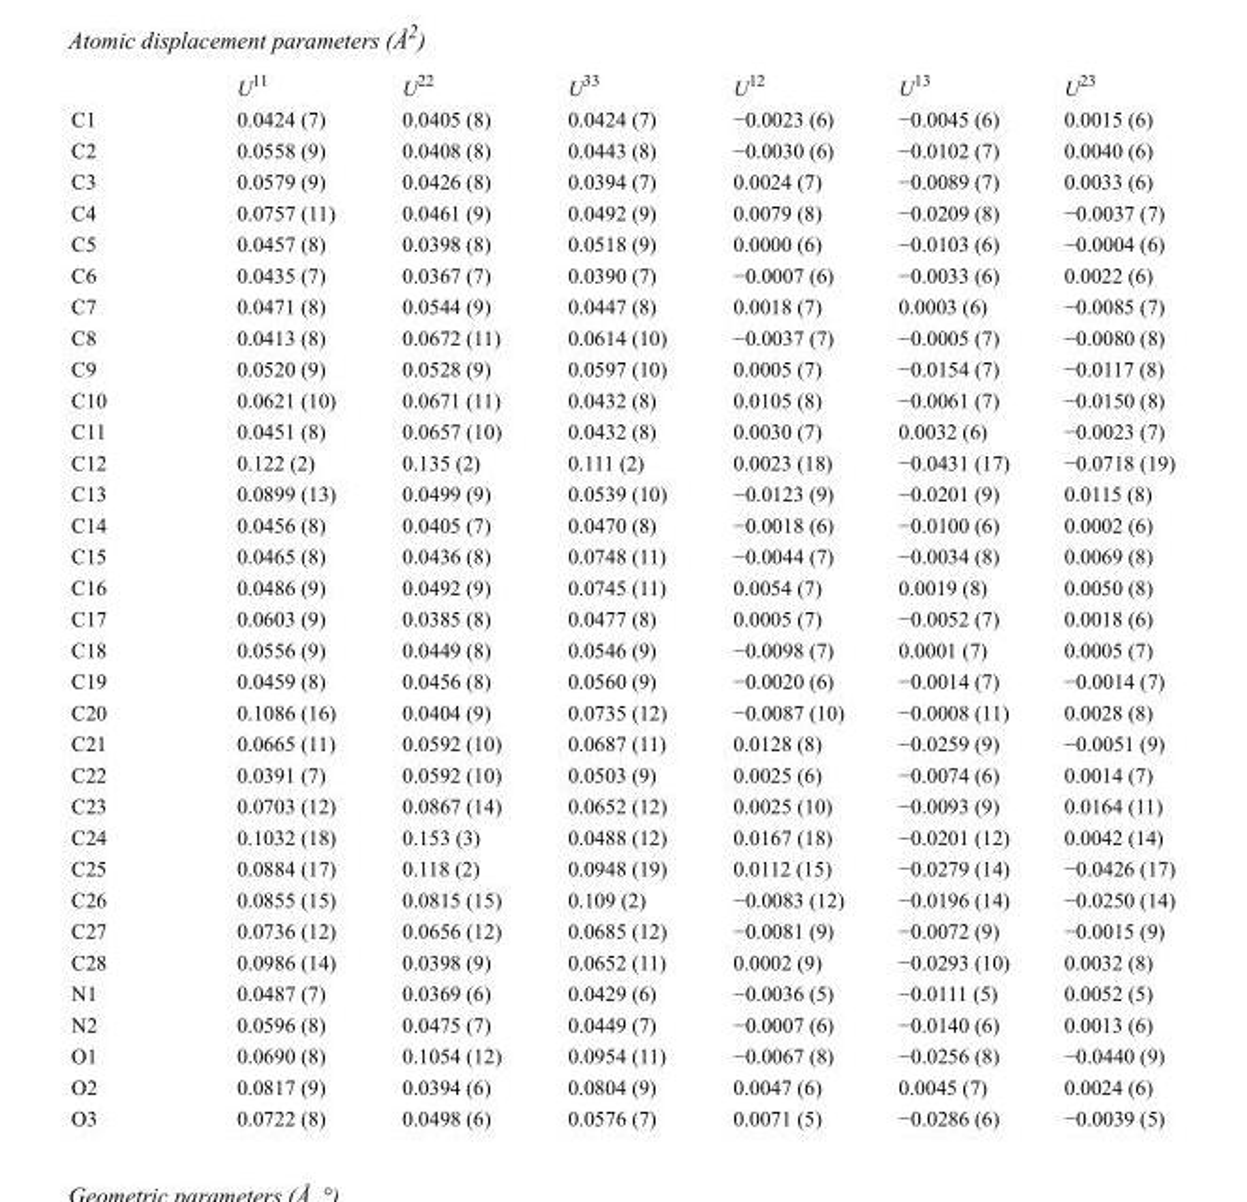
<table><thead><tr><td></td><td>U<sup>11</sup></td><td>U<sup>22</sup></td><td>U<sup>33</sup></td><td>U<sup>12</sup></td><td>U<sup>13</sup></td><td>U<sup>23</sup></td></tr></thead><tbody><tr><td>C1</td><td>0.0424 (7)</td><td>0.0405 (8)</td><td>0.0424 (7)</td><td>−0.0023 (6)</td><td>−0.0045 (6)</td><td>0.0015 (6)</td></tr><tr><td>C2</td><td>0.0558 (9)</td><td>0.0408 (8)</td><td>0.0443 (8)</td><td>−0.0030 (6)</td><td>−0.0102 (7)</td><td>0.0040 (6)</td></tr><tr><td>C3</td><td>0.0579 (9)</td><td>0.0426 (8)</td><td>0.0394 (7)</td><td>0.0024 (7)</td><td>−0.0089 (7)</td><td>0.0033 (6)</td></tr><tr><td>C4</td><td>0.0757 (11)</td><td>0.0461 (9)</td><td>0.0492 (9)</td><td>0.0079 (8)</td><td>−0.0209 (8)</td><td>−0.0037 (7)</td></tr><tr><td>C5</td><td>0.0457 (8)</td><td>0.0398 (8)</td><td>0.0518 (9)</td><td>0.0000 (6)</td><td>−0.0103 (6)</td><td>−0.0004 (6)</td></tr><tr><td>C6</td><td>0.0435 (7)</td><td>0.0367 (7)</td><td>0.0390 (7)</td><td>−0.0007 (6)</td><td>−0.0033 (6)</td><td>0.0022 (6)</td></tr><tr><td>C7</td><td>0.0471 (8)</td><td>0.0544 (9)</td><td>0.0447 (8)</td><td>0.0018 (7)</td><td>0.0003 (6)</td><td>−0.0085 (7)</td></tr><tr><td>C8</td><td>0.0413 (8)</td><td>0.0672 (11)</td><td>0.0614 (10)</td><td>−0.0037 (7)</td><td>−0.0005 (7)</td><td>−0.0080 (8)</td></tr><tr><td>C9</td><td>0.0520 (9)</td><td>0.0528 (9)</td><td>0.0597 (10)</td><td>0.0005 (7)</td><td>−0.0154 (7)</td><td>−0.0117 (8)</td></tr><tr><td>C10</td><td>0.0621 (10)</td><td>0.0671 (11)</td><td>0.0432 (8)</td><td>0.0105 (8)</td><td>−0.0061 (7)</td><td>−0.0150 (8)</td></tr><tr><td>C11</td><td>0.0451 (8)</td><td>0.0657 (10)</td><td>0.0432 (8)</td><td>0.0030 (7)</td><td>0.0032 (6)</td><td>−0.0023 (7)</td></tr><tr><td>C12</td><td>0.122 (2)</td><td>0.135 (2)</td><td>0.111 (2)</td><td>0.0023 (18)</td><td>−0.0431 (17)</td><td>−0.0718 (19)</td></tr><tr><td>C13</td><td>0.0899 (13)</td><td>0.0499 (9)</td><td>0.0539 (10)</td><td>−0.0123 (9)</td><td>−0.0201 (9)</td><td>0.0115 (8)</td></tr><tr><td>C14</td><td>0.0456 (8)</td><td>0.0405 (7)</td><td>0.0470 (8)</td><td>−0.0018 (6)</td><td>−0.0100 (6)</td><td>0.0002 (6)</td></tr><tr><td>C15</td><td>0.0465 (8)</td><td>0.0436 (8)</td><td>0.0748 (11)</td><td>−0.0044 (7)</td><td>−0.0034 (8)</td><td>0.0069 (8)</td></tr><tr><td>C16</td><td>0.0486 (9)</td><td>0.0492 (9)</td><td>0.0745 (11)</td><td>0.0054 (7)</td><td>0.0019 (8)</td><td>0.0050 (8)</td></tr><tr><td>C17</td><td>0.0603 (9)</td><td>0.0385 (8)</td><td>0.0477 (8)</td><td>0.0005 (7)</td><td>−0.0052 (7)</td><td>0.0018 (6)</td></tr><tr><td>C18</td><td>0.0556 (9)</td><td>0.0449 (8)</td><td>0.0546 (9)</td><td>−0.0098 (7)</td><td>0.0001 (7)</td><td>0.0005 (7)</td></tr><tr><td>C19</td><td>0.0459 (8)</td><td>0.0456 (8)</td><td>0.0560 (9)</td><td>−0.0020 (6)</td><td>−0.0014 (7)</td><td>−0.0014 (7)</td></tr><tr><td>C20</td><td>0.1086 (16)</td><td>0.0404 (9)</td><td>0.0735 (12)</td><td>−0.0087 (10)</td><td>−0.0008 (11)</td><td>0.0028 (8)</td></tr><tr><td>C21</td><td>0.0665 (11)</td><td>0.0592 (10)</td><td>0.0687 (11)</td><td>0.0128 (8)</td><td>−0.0259 (9)</td><td>−0.0051 (9)</td></tr><tr><td>C22</td><td>0.0391 (7)</td><td>0.0592 (10)</td><td>0.0503 (9)</td><td>0.0025 (6)</td><td>−0.0074 (6)</td><td>0.0014 (7)</td></tr><tr><td>C23</td><td>0.0703 (12)</td><td>0.0867 (14)</td><td>0.0652 (12)</td><td>0.0025 (10)</td><td>−0.0093 (9)</td><td>0.0164 (11)</td></tr><tr><td>C24</td><td>0.1032 (18)</td><td>0.153 (3)</td><td>0.0488 (12)</td><td>0.0167 (18)</td><td>−0.0201 (12)</td><td>0.0042 (14)</td></tr><tr><td>C25</td><td>0.0884 (17)</td><td>0.118 (2)</td><td>0.0948 (19)</td><td>0.0112 (15)</td><td>−0.0279 (14)</td><td>−0.0426 (17)</td></tr><tr><td>C26</td><td>0.0855 (15)</td><td>0.0815 (15)</td><td>0.109 (2)</td><td>−0.0083 (12)</td><td>−0.0196 (14)</td><td>−0.0250 (14)</td></tr><tr><td>C27</td><td>0.0736 (12)</td><td>0.0656 (12)</td><td>0.0685 (12)</td><td>−0.0081 (9)</td><td>−0.0072 (9)</td><td>−0.0015 (9)</td></tr><tr><td>C28</td><td>0.0986 (14)</td><td>0.0398 (9)</td><td>0.0652 (11)</td><td>0.0002 (9)</td><td>−0.0293 (10)</td><td>0.0032 (8)</td></tr><tr><td>N1</td><td>0.0487 (7)</td><td>0.0369 (6)</td><td>0.0429 (6)</td><td>−0.0036 (5)</td><td>−0.0111 (5)</td><td>0.0052 (5)</td></tr><tr><td>N2</td><td>0.0596 (8)</td><td>0.0475 (7)</td><td>0.0449 (7)</td><td>−0.0007 (6)</td><td>−0.0140 (6)</td><td>0.0013 (6)</td></tr><tr><td>O1</td><td>0.0690 (8)</td><td>0.1054 (12)</td><td>0.0954 (11)</td><td>−0.0067 (8)</td><td>−0.0256 (8)</td><td>−0.0440 (9)</td></tr><tr><td>O2</td><td>0.0817 (9)</td><td>0.0394 (6)</td><td>0.0804 (9)</td><td>0.0047 (6)</td><td>0.0045 (7)</td><td>0.0024 (6)</td></tr><tr><td>O3</td><td>0.0722 (8)</td><td>0.0498 (6)</td><td>0.0576 (7)</td><td>0.0071 (5)</td><td>−0.0286 (6)</td><td>−0.0039 (5)</td></tr></tbody></table>